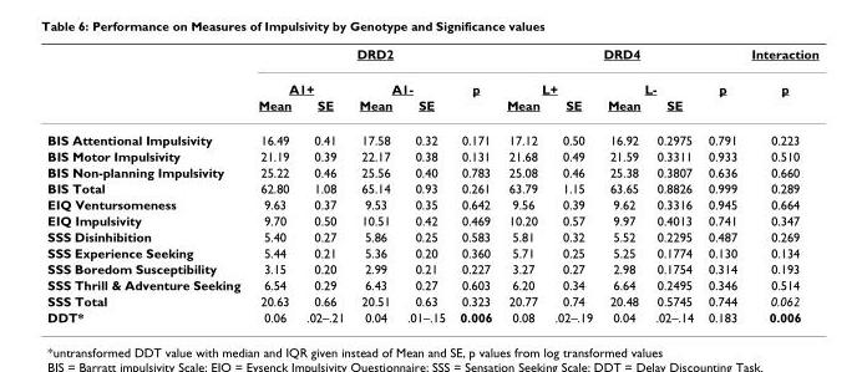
<table><thead><tr><td rowspan="3"></td><td colspan="5">DRD2</td><td colspan="5">DRD4</td><td rowspan="3">Interaction p</td></tr><tr><td colspan="2">A1+</td><td colspan="2">A1-</td><td rowspan="2">p</td><td colspan="2">L+</td><td colspan="2">L-</td><td rowspan="2">p</td></tr><tr><td>Mean</td><td>SE</td><td>Mean</td><td>SE</td><td>Mean</td><td>SE</td><td>Mean</td><td>SE</td></tr></thead><tbody><tr><td>BIS Attentional Impulsivity</td><td>16.49</td><td>0.41</td><td>17.58</td><td>0.32</td><td>0.171</td><td>17.12</td><td>0.50</td><td>16.92</td><td>0.2975</td><td>0.791</td><td>0.223</td></tr><tr><td>BIS Motor Impulsivity</td><td>21.19</td><td>0.39</td><td>22.17</td><td>0.38</td><td>0.131</td><td>21.68</td><td>0.49</td><td>21.59</td><td>0.3311</td><td>0.933</td><td>0.510</td></tr><tr><td>BIS Non-planning Impulsivity</td><td>25.22</td><td>0.46</td><td>25.56</td><td>0.40</td><td>0.783</td><td>25.08</td><td>0.46</td><td>25.38</td><td>0.3807</td><td>0.636</td><td>0.660</td></tr><tr><td>BIS Total</td><td>62.80</td><td>1.08</td><td>65.14</td><td>0.93</td><td>0.261</td><td>63.79</td><td>1.15</td><td>63.65</td><td>0.8826</td><td>0.999</td><td>0.289</td></tr><tr><td>EIQ Ventursomeness</td><td>9.63</td><td>0.37</td><td>9.53</td><td>0.35</td><td>0.642</td><td>9.56</td><td>0.39</td><td>9.62</td><td>0.3316</td><td>0.945</td><td>0.664</td></tr><tr><td>EIQ Impulsivity</td><td>9.70</td><td>0.50</td><td>10.51</td><td>0.42</td><td>0.469</td><td>10.20</td><td>0.57</td><td>9.97</td><td>0.4013</td><td>0.741</td><td>0.347</td></tr><tr><td>SSS Disinhibition</td><td>5.40</td><td>0.27</td><td>5.86</td><td>0.25</td><td>0.583</td><td>5.81</td><td>0.32</td><td>5.52</td><td>0.2295</td><td>0.487</td><td>0.269</td></tr><tr><td>SSS Experience Seeking</td><td>5.44</td><td>0.21</td><td>5.36</td><td>0.20</td><td>0.360</td><td>5.71</td><td>0.25</td><td>5.25</td><td>0.1774</td><td>0.130</td><td>0.134</td></tr><tr><td>SSS Boredom Susceptibility</td><td>3.15</td><td>0.20</td><td>2.99</td><td>0.21</td><td>0.227</td><td>3.27</td><td>0.27</td><td>2.98</td><td>0.1754</td><td>0.314</td><td>0.193</td></tr><tr><td>SSS Thrill &amp; Adventure Seeking</td><td>6.54</td><td>0.29</td><td>6.43</td><td>0.27</td><td>0.603</td><td>6.20</td><td>0.34</td><td>6.64</td><td>0.2495</td><td>0.346</td><td>0.514</td></tr><tr><td>SSS Total</td><td>20.63</td><td>0.66</td><td>20.51</td><td>0.63</td><td>0.323</td><td>20.77</td><td>0.74</td><td>20.48</td><td>0.5745</td><td>0.744</td><td>0.062</td></tr><tr><td>DDT*</td><td>0.06</td><td>.02–.21</td><td>0.04</td><td>.01–.15</td><td>0.006</td><td>0.08</td><td>.02–.19</td><td>0.04</td><td>.02–.14</td><td>0.183</td><td>0.006</td></tr></tbody></table>